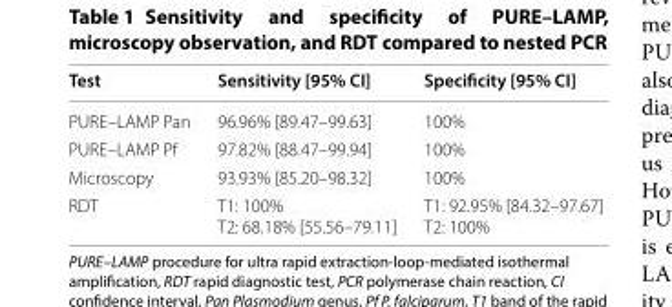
<table><thead><tr><td>Test</td><td>Sensitivity [95% CI]</td><td>Specificity [95% CI]</td></tr></thead><tbody><tr><td>PURE–LAMP Pan</td><td>96.96% [89.47–99.63]</td><td>100%</td></tr><tr><td>PURE–LAMP Pf</td><td>97.82% [88.47–99.94]</td><td>100%</td></tr><tr><td>Microscopy</td><td>93.93% [85.20–98.32]</td><td>100%</td></tr><tr><td>RDT</td><td>T1: 100% T2: 68.18% [55.56–79.11]</td><td>T1: 92.95% [84.32–97.67] T2: 100%</td></tr></tbody></table>